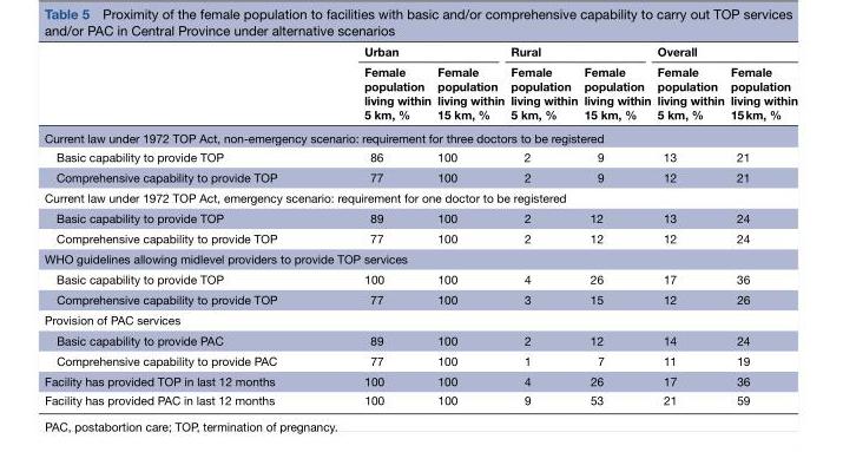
<table><thead><tr><td rowspan="2"></td><td colspan="2">Urban</td><td colspan="2">Rural</td><td colspan="2">Overall</td></tr><tr><td>Female population living within 5 km, %</td><td>Female population living within 15 km, %</td><td>Female population living within 5 km, %</td><td>Female population living within 15 km, %</td><td>Female population living within 5 km, %</td><td>Female population living within 15 km, %</td></tr></thead><tbody><tr><td colspan="7">Current law under 1972 TOP Act, non-emergency scenario: requirement for three doctors to be registered</td></tr><tr><td>Basic capability to provide TOP</td><td>86</td><td>100</td><td>2</td><td>9</td><td>13</td><td>21</td></tr><tr><td>Comprehensive capability to provide TOP</td><td>77</td><td>100</td><td>2</td><td>9</td><td>12</td><td>21</td></tr><tr><td colspan="7">Current law under 1972 TOP Act, emergency scenario: requirement for one doctor to be registered</td></tr><tr><td>Basic capability to provide TOP</td><td>89</td><td>100</td><td>2</td><td>12</td><td>13</td><td>24</td></tr><tr><td>Comprehensive capability to provide TOP</td><td>77</td><td>100</td><td>2</td><td>12</td><td>12</td><td>24</td></tr><tr><td colspan="7">WHO guidelines allowing midlevel providers to provide TOP services</td></tr><tr><td>Basic capability to provide TOP</td><td>100</td><td>100</td><td>4</td><td>26</td><td>17</td><td>36</td></tr><tr><td>Comprehensive capability to provide TOP</td><td>77</td><td>100</td><td>3</td><td>15</td><td>12</td><td>26</td></tr><tr><td colspan="7">Provision of PAC services</td></tr><tr><td>Basic capability to provide PAC</td><td>89</td><td>100</td><td>2</td><td>12</td><td>14</td><td>24</td></tr><tr><td>Comprehensive capability to provide PAC</td><td>77</td><td>100</td><td>1</td><td>7</td><td>11</td><td>19</td></tr><tr><td>Facility has provided TOP in last 12 months</td><td>100</td><td>100</td><td>4</td><td>26</td><td>17</td><td>36</td></tr><tr><td>Facility has provided PAC in last 12 months</td><td>100</td><td>100</td><td>9</td><td>53</td><td>21</td><td>59</td></tr></tbody></table>